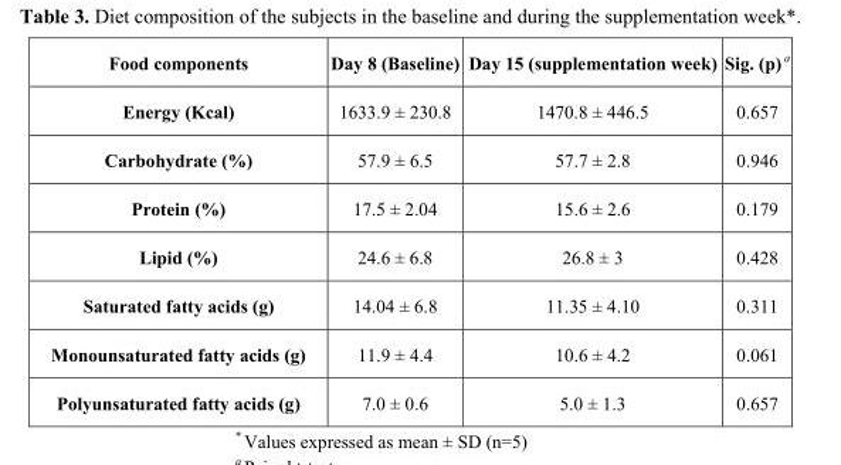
<table><thead><tr><td>Food components</td><td>Day 8 (Baseline)</td><td>Day 15 (supplementation week)</td><td>Sig. (p) <sup>a</sup></td></tr></thead><tbody><tr><td>Energy (Kcal)</td><td>1633.9 ± 230.8</td><td>1470.8 ± 446.5</td><td>0.657</td></tr><tr><td>Carbohydrate (%)</td><td>57.9 ± 6.5</td><td>57.7 ± 2.8</td><td>0.946</td></tr><tr><td>Protein (%)</td><td>17.5 ± 2.04</td><td>15.6 ± 2.6</td><td>0.179</td></tr><tr><td>Lipid (%)</td><td>24.6 ± 6.8</td><td>26.8 ± 3</td><td>0.428</td></tr><tr><td>Saturated fatty acids (g)</td><td>14.04 ± 6.8</td><td>11.35 ± 4.10</td><td>0.311</td></tr><tr><td>Monounsaturated fatty acids (g)</td><td>11.9 ± 4.4</td><td>10.6 ± 4.2</td><td>0.061</td></tr><tr><td>Polyunsaturated fatty acids (g)</td><td>7.0 ± 0.6</td><td>5.0 ± 1.3</td><td>0.657</td></tr></tbody></table>